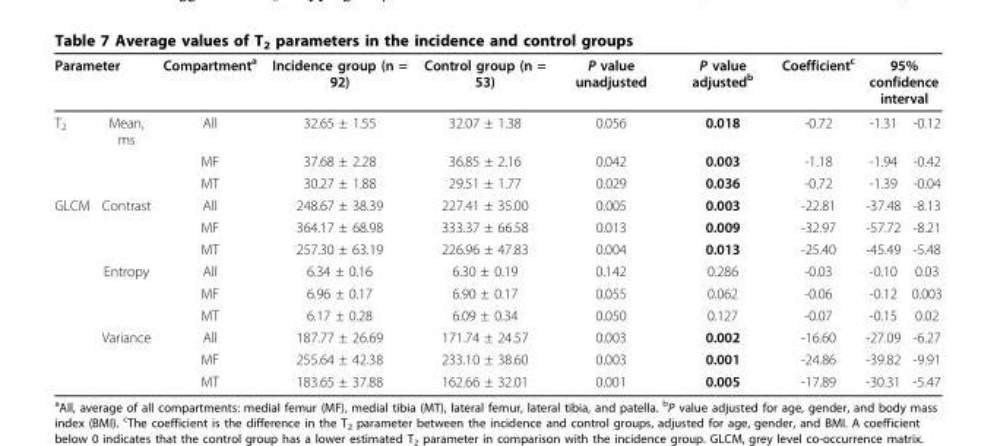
<table><thead><tr><td colspan="2">Parameter</td><td rowspan="2">Compartment<sup>a</sup> All</td><td rowspan="2">Incidence group (n = 92) 32.65 ± 1.55</td><td rowspan="2">Control group (n = 53) 32.07 ± 1.38</td><td rowspan="2">P value unadjusted 0.056</td><td rowspan="2">P value adjusted<sup>b</sup> 0.018</td><td rowspan="2">Coefficient<sup>c</sup> -0.72</td><td colspan="2">95% confidence interval</td></tr><tr><td>T<sub>2</sub></td><td>Mean, ms</td><td>-1.31</td><td>-0.12</td></tr></thead><tbody><tr><td></td><td></td><td>MF</td><td>37.68 ± 2.28</td><td>36.85 ± 2.16</td><td>0.042</td><td>0.003</td><td>-1.18</td><td>-1.94</td><td>-0.42</td></tr><tr><td></td><td></td><td>MT</td><td>30.27 ± 1.88</td><td>29.51 ± 1.77</td><td>0.029</td><td>0.036</td><td>-0.72</td><td>-1.39</td><td>-0.04</td></tr><tr><td rowspan="9">GLCM</td><td>Contrast</td><td>All</td><td>248.67 ± 38.39</td><td>227.41 ± 35.00</td><td>0.005</td><td>0.003</td><td>-22.81</td><td>-37.48</td><td>-8.13</td></tr><tr><td></td><td>MF</td><td>364.17 ± 68.98</td><td>333.37 ± 66.58</td><td>0.013</td><td>0.009</td><td>-32.97</td><td>-57.72</td><td>-8.21</td></tr><tr><td></td><td>MT</td><td>257.30 ± 63.19</td><td>226.96 ± 47.83</td><td>0.004</td><td>0.013</td><td>-25.40</td><td>-45.49</td><td>-5.48</td></tr><tr><td>Entropy</td><td>All</td><td>6.34 ± 0.16</td><td>6.30 ± 0.19</td><td>0.142</td><td>0.286</td><td>-0.03</td><td>-0.10</td><td>0.03</td></tr><tr><td></td><td>MF</td><td>6.96 ± 0.17</td><td>6.90 ± 0.17</td><td>0.055</td><td>0.062</td><td>-0.06</td><td>-0.12</td><td>0.003</td></tr><tr><td></td><td>MT</td><td>6.17 ± 0.28</td><td>6.09 ± 0.34</td><td>0.050</td><td>0.127</td><td>-0.07</td><td>-0.15</td><td>0.02</td></tr><tr><td>Variance</td><td>All</td><td>187.77 ± 26.69</td><td>171.74 ± 24.57</td><td>0.003</td><td>0.002</td><td>-16.60</td><td>-27.09</td><td>-6.27</td></tr><tr><td></td><td>MF</td><td>255.64 ± 42.38</td><td>233.10 ± 38.60</td><td>0.003</td><td>0.001</td><td>-24.86</td><td>-39.82</td><td>-9.91</td></tr><tr><td></td><td>MT</td><td>183.65 ± 37.88</td><td>162.66 ± 32.01</td><td>0.001</td><td>0.005</td><td>-17.89</td><td>-30.31</td><td>-5.47</td></tr></tbody></table>